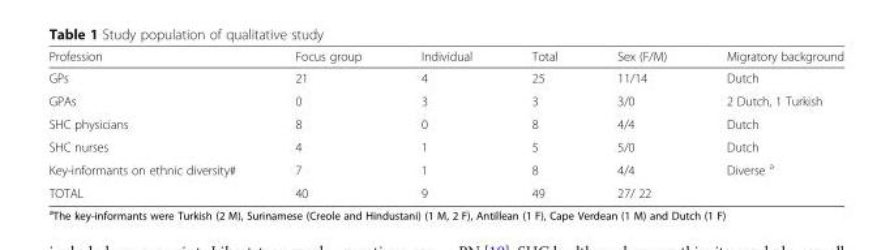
<table><thead><tr><td>Profession</td><td>Focus group</td><td>Individual</td><td>Total</td><td>Sex (F/M)</td><td>Migratory background</td></tr></thead><tbody><tr><td>GPs</td><td>21</td><td>4</td><td>25</td><td>11/14</td><td>Dutch</td></tr><tr><td>GPAs</td><td>0</td><td>3</td><td>3</td><td>3/0</td><td>2 Dutch, 1 Turkish</td></tr><tr><td>SHC physicians</td><td>8</td><td>0</td><td>8</td><td>4/4</td><td>Dutch</td></tr><tr><td>SHC nurses</td><td>4</td><td>1</td><td>5</td><td>5/0</td><td>Dutch</td></tr><tr><td>Key-informants on ethnic diversity#</td><td>7</td><td>1</td><td>8</td><td>4/4</td><td>Diverse <sup>a</sup></td></tr><tr><td>TOTAL</td><td>40</td><td>9</td><td>49</td><td>27/ 22</td><td></td></tr></tbody></table>